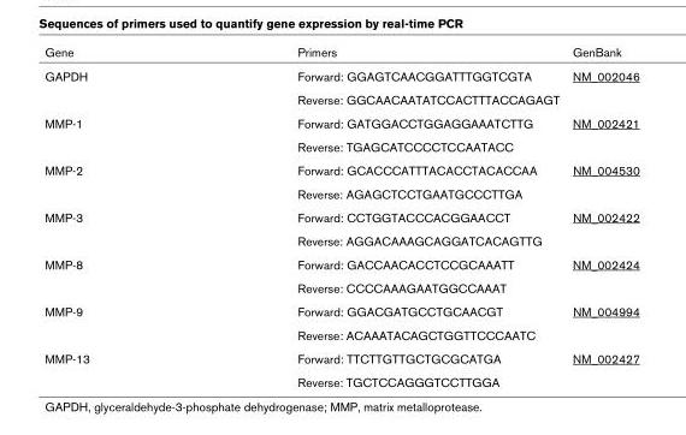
<table><thead><tr><td>Gene</td><td>Primers</td><td>GenBank</td></tr></thead><tbody><tr><td rowspan="2">GAPDH</td><td>Forward: GGAGTCAACGGATTTGGTCGTA</td><td>NM_002046</td></tr><tr><td>Reverse: GGCAACAATATCCACTTTACCAGAGT</td><td></td></tr><tr><td rowspan="2">MMP-1</td><td>Forward: GATGGACCTGGAGGAAATCTTG</td><td>NM_002421</td></tr><tr><td>Reverse: TGAGCATCCCCTCCAATACC</td><td></td></tr><tr><td rowspan="2">MMP-2</td><td>Forward: GCACCCATTTACACCTACACCAA</td><td>NM_004530</td></tr><tr><td>Reverse: AGAGCTCCTGAATGCCCTTGA</td><td></td></tr><tr><td rowspan="2">MMP-3</td><td>Forward: CCTGGTACCCACGGAACCT</td><td>NM_002422</td></tr><tr><td>Reverse: AGGACAAAGCAGGATCACAGTTG</td><td></td></tr><tr><td rowspan="2">MMP-8</td><td>Forward: GACCAACACCTCCGCAAATT</td><td>NM_002424</td></tr><tr><td>Reverse: CCCCAAAGAATGGCCAAAT</td><td></td></tr><tr><td rowspan="2">MMP-9</td><td>Forward: GGACGATGCCTGCAACGT</td><td>NM_004994</td></tr><tr><td>Reverse: ACAAATACAGCTGGTTCCCAATC</td><td></td></tr><tr><td rowspan="2">MMP-13</td><td>Forward: TTCTTGTTGCTGCGCATGA</td><td>NM_002427</td></tr><tr><td>Reverse: TGCTCCAGGGTCCTTGGA</td><td></td></tr></tbody></table>